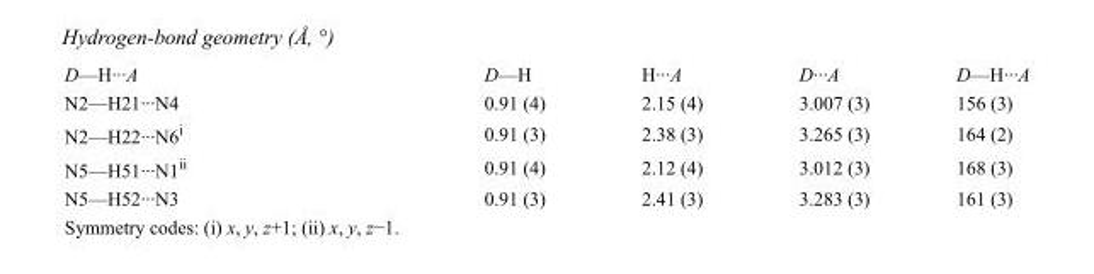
<table><tbody><tr><td>D—H···A</td><td>D—H</td><td>H···A</td><td>D···A</td><td>D—H···A</td></tr><tr><td>N2—H21···N4</td><td>0.91 (4)</td><td>2.15 (4)</td><td>3.007 (3)</td><td>156 (3)</td></tr><tr><td>N2—H22···N6<sup>i</sup></td><td>0.91 (3)</td><td>2.38 (3)</td><td>3.265 (3)</td><td>164 (2)</td></tr><tr><td>N5—H51···N1<sup>ii</sup></td><td>0.91 (4)</td><td>2.12 (4)</td><td>3.012 (3)</td><td>168 (3)</td></tr><tr><td>N5—H52···N3</td><td>0.91 (3)</td><td>2.41 (3)</td><td>3.283 (3)</td><td>161 (3)</td></tr></tbody></table>